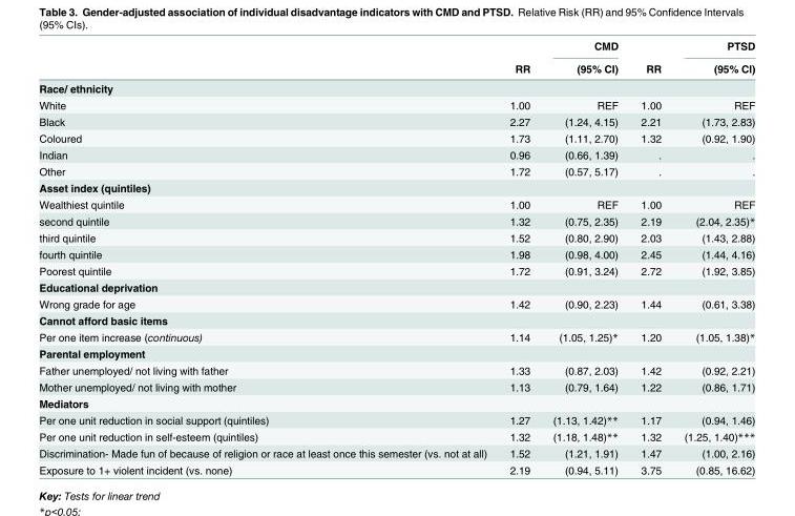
<table><thead><tr><td rowspan="2"></td><td rowspan="2">RR</td><td rowspan="2">CMD (95% CI)</td><td rowspan="2">RR</td><td rowspan="2">PTSD (95% CI)</td></tr><tr></tr></thead><tbody><tr><td colspan="5">Race/ ethnicity</td></tr><tr><td>White</td><td>1.00</td><td>REF</td><td>1.00</td><td>REF</td></tr><tr><td>Black</td><td>2.27</td><td>(1.24, 4.15)</td><td>2.21</td><td>(1.73, 2.83)</td></tr><tr><td>Coloured</td><td>1.73</td><td>(1.11, 2.70)</td><td>1.32</td><td>(0.92, 1.90)</td></tr><tr><td>Indian</td><td>0.96</td><td>(0.66, 1.39)</td><td>.</td><td>.</td></tr><tr><td>Other</td><td>1.72</td><td>(0.57, 5.17)</td><td>.</td><td>.</td></tr><tr><td colspan="5">Asset index (quintiles)</td></tr><tr><td>Wealthiest quintile</td><td>1.00</td><td>REF</td><td>1.00</td><td>REF</td></tr><tr><td>second quintile</td><td>1.32</td><td>(0.75, 2.35)</td><td>2.19</td><td>(2.04, 2.35)*</td></tr><tr><td>third quintile</td><td>1.52</td><td>(0.80, 2.90)</td><td>2.03</td><td>(1.43, 2.88)</td></tr><tr><td>fourth quintile</td><td>1.98</td><td>(0.98, 4.00)</td><td>2.45</td><td>(1.44, 4.16)</td></tr><tr><td>Poorest quintile</td><td>1.72</td><td>(0.91, 3.24)</td><td>2.72</td><td>(1.92, 3.85)</td></tr><tr><td colspan="5">Educational deprivation</td></tr><tr><td>Wrong grade for age</td><td>1.42</td><td>(0.90, 2.23)</td><td>1.44</td><td>(0.61, 3.38)</td></tr><tr><td colspan="5">Cannot afford basic items</td></tr><tr><td>Per one item increase (continuous)</td><td>1.14</td><td>(1.05, 1.25)*</td><td>1.20</td><td>(1.05, 1.38)*</td></tr><tr><td colspan="5">Parental employment</td></tr><tr><td>Father unemployed/ not living with father</td><td>1.33</td><td>(0.87, 2.03)</td><td>1.42</td><td>(0.92, 2.21)</td></tr><tr><td>Mother unemployed/ not living with mother</td><td>1.13</td><td>(0.79, 1.64)</td><td>1.22</td><td>(0.86, 1.71)</td></tr><tr><td colspan="5">Mediators</td></tr><tr><td>Per one unit reduction in social support (quintiles)</td><td>1.27</td><td>(1.13, 1.42)**</td><td>1.17</td><td>(0.94, 1.46)</td></tr><tr><td>Per one unit reduction in self-esteem (quintiles)</td><td>1.32</td><td>(1.18, 1.48)**</td><td>1.32</td><td>(1.25, 1.40)***</td></tr><tr><td>Discrimination- Made fun of because of religion or race at least once this semester (vs. not at all)</td><td>1.52</td><td>(1.21, 1.91)</td><td>1.47</td><td>(1.00, 2.16)</td></tr><tr><td>Exposure to 1+ violent incident (vs. none)</td><td>2.19</td><td>(0.94, 5.11)</td><td>3.75</td><td>(0.85, 16.62)</td></tr></tbody></table>